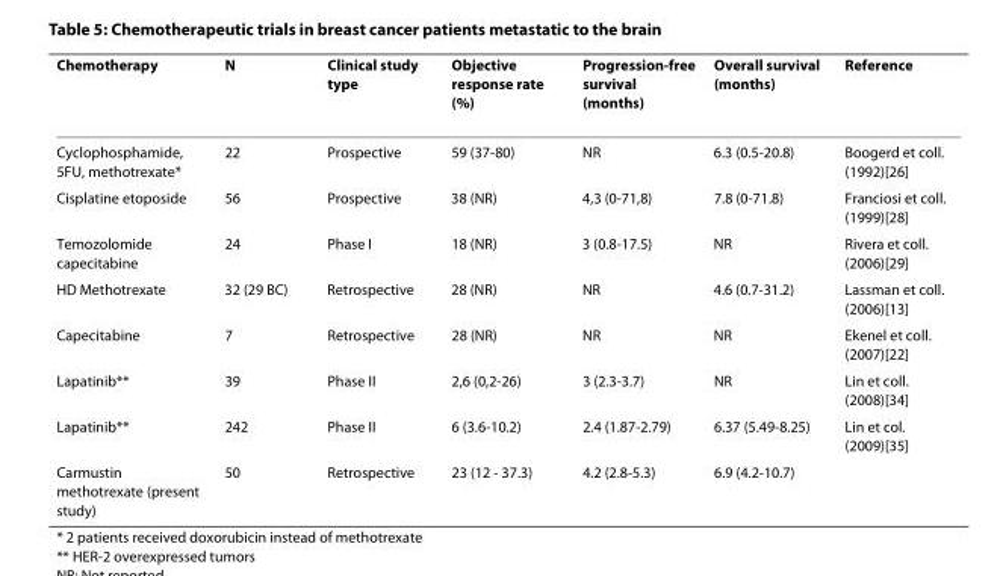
<table><thead><tr><td>Chemotherapy</td><td>N</td><td>Clinical study type</td><td>Objective response rate (%)</td><td>Progression-free survival (months)</td><td>Overall survival (months)</td><td>Reference</td></tr></thead><tbody><tr><td>Cyclophosphamide, 5FU, methotrexate*</td><td>22</td><td>Prospective</td><td>59 (37-80)</td><td>NR</td><td>6.3 (0.5-20.8)</td><td>Boogerd et coll. (1992)[26]</td></tr><tr><td>Cisplatine etoposide</td><td>56</td><td>Prospective</td><td>38 (NR)</td><td>4,3 (0-71,8)</td><td>7.8 (0-71.8)</td><td>Franciosi et coll. (1999)[28]</td></tr><tr><td>Temozolomide capecitabine</td><td>24</td><td>Phase I</td><td>18 (NR)</td><td>3 (0.8-17.5)</td><td>NR</td><td>Rivera et coll. (2006)[29]</td></tr><tr><td>HD Methotrexate</td><td>32 (29 BC)</td><td>Retrospective</td><td>28 (NR)</td><td>NR</td><td>4.6 (0.7-31.2)</td><td>Lassman et coll. (2006)[13]</td></tr><tr><td>Capecitabine</td><td>7</td><td>Retrospective</td><td>28 (NR)</td><td>NR</td><td>NR</td><td>Ekenel et coll. (2007)[22]</td></tr><tr><td>Lapatinib**</td><td>39</td><td>Phase II</td><td>2,6 (0,2-26)</td><td>3 (2.3-3.7)</td><td>NR</td><td>Lin et coll. (2008)[34]</td></tr><tr><td>Lapatinib**</td><td>242</td><td>Phase II</td><td>6 (3.6-10.2)</td><td>2.4 (1.87-2.79)</td><td>6.37 (5.49-8.25)</td><td>Lin et col. (2009)[35]</td></tr><tr><td>Carmustin methotrexate (present study)</td><td>50</td><td>Retrospective</td><td>23 (12 - 37.3)</td><td>4.2 (2.8-5.3)</td><td>6.9 (4.2-10.7)</td><td></td></tr></tbody></table>